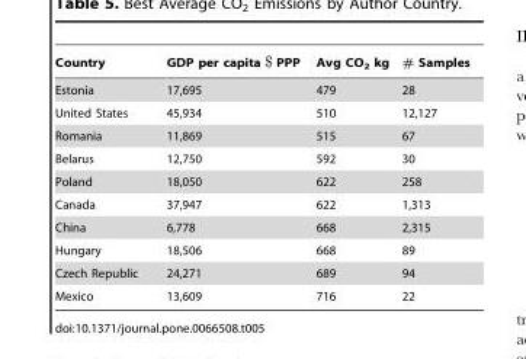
<table><thead><tr><td>Country</td><td>GDP per capita $ PPP</td><td>Avg CO<sub>2</sub> kg</td><td># Samples</td></tr></thead><tbody><tr><td>Estonia</td><td>17,695</td><td>479</td><td>28</td></tr><tr><td>United States</td><td>45,934</td><td>510</td><td>12,127</td></tr><tr><td>Romania</td><td>11,869</td><td>515</td><td>67</td></tr><tr><td>Belarus</td><td>12,750</td><td>592</td><td>30</td></tr><tr><td>Poland</td><td>18,050</td><td>622</td><td>258</td></tr><tr><td>Canada</td><td>37,947</td><td>622</td><td>1,313</td></tr><tr><td>China</td><td>6,778</td><td>668</td><td>2,315</td></tr><tr><td>Hungary</td><td>18,506</td><td>668</td><td>89</td></tr><tr><td>Czech Republic</td><td>24,271</td><td>689</td><td>94</td></tr><tr><td>Mexico</td><td>13,609</td><td>716</td><td>22</td></tr></tbody></table>